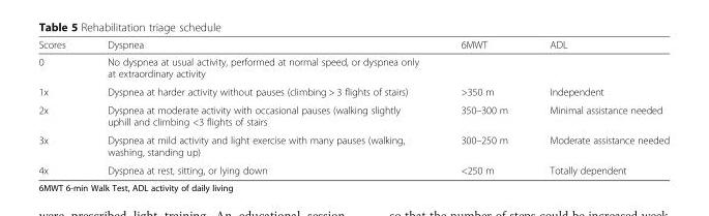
<table><thead><tr><td>Scores</td><td>Dyspnea</td><td>6MWT</td><td>ADL</td></tr></thead><tbody><tr><td>0</td><td>No dyspnea at usual activity, performed at normal speed, or dyspnea only at extraordinary activity</td><td></td><td></td></tr><tr><td>1x</td><td>Dyspnea at harder activity without pauses (climbing &gt; 3 flights of stairs)</td><td>&gt;350 m</td><td>Independent</td></tr><tr><td>2x</td><td>Dyspnea at moderate activity with occasional pauses (walking slightly uphill and climbing &lt;3 flights of stairs</td><td>350–300 m</td><td>Minimal assistance needed</td></tr><tr><td>3x</td><td>Dyspnea at mild activity and light exercise with many pauses (walking, washing, standing up)</td><td>300–250 m</td><td>Moderate assistance needed</td></tr><tr><td>4x</td><td>Dyspnea at rest, sitting, or lying down</td><td>&lt;250 m</td><td>Totally dependent</td></tr></tbody></table>